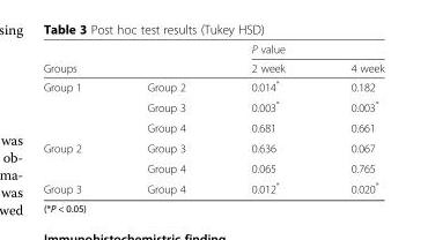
<table><thead><tr><td></td><td></td><td colspan="2">P value</td></tr><tr><td colspan="2">Groups</td><td>2 week</td><td>4 week</td></tr></thead><tbody><tr><td rowspan="3">Group 1</td><td>Group 2</td><td>0.014*</td><td>0.182</td></tr><tr><td>Group 3</td><td>0.003*</td><td>0.003*</td></tr><tr><td>Group 4</td><td>0.681</td><td>0.661</td></tr><tr><td rowspan="2">Group 2</td><td>Group 3</td><td>0.636</td><td>0.067</td></tr><tr><td>Group 4</td><td>0.065</td><td>0.765</td></tr><tr><td>Group 3</td><td>Group 4</td><td>0.012*</td><td>0.020*</td></tr></tbody></table>